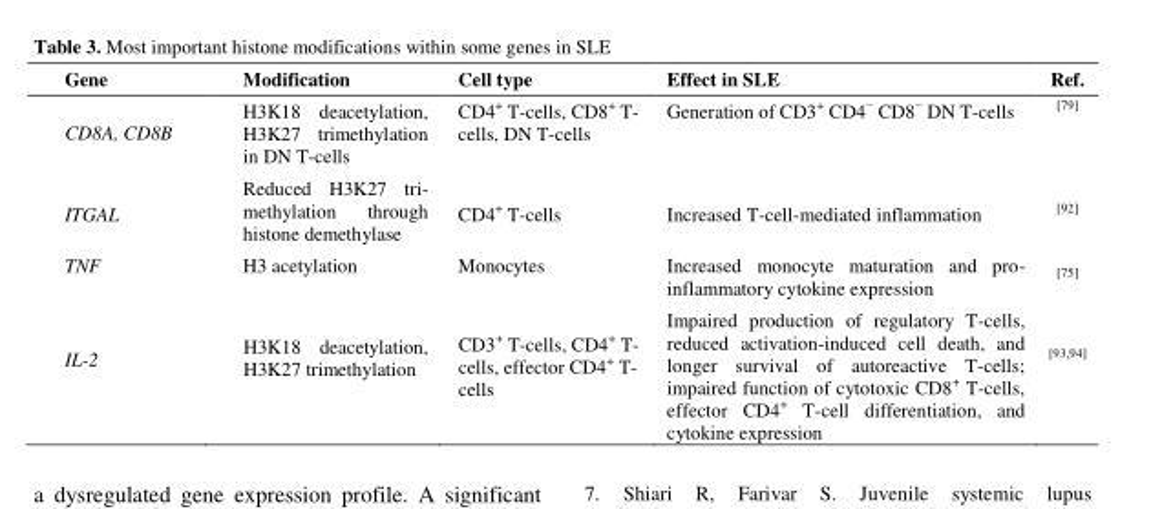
<table><thead><tr><td>Gene</td><td>Modification</td><td>Cell type</td><td>Effect in SLE</td><td>Ref.</td></tr></thead><tbody><tr><td>CD8A, CD8B</td><td>H3K18 deacetylation, H3K27 trimethylation in DN T-cells</td><td>CD4<sup>+</sup> T-cells, CD8<sup>+</sup> T- cells, DN T-cells</td><td>Generation of CD3<sup>+</sup> CD4<sup>−</sup> CD8<sup>−</sup> DN T-cells</td><td>[79]</td></tr><tr><td>ITGAL</td><td>Reduced H3K27 tri- methylation through histone demethylase</td><td>CD4<sup>+</sup> T-cells</td><td>Increased T-cell-mediated inflammation</td><td>[92]</td></tr><tr><td>TNF</td><td>H3 acetylation</td><td>Monocytes</td><td>Increased monocyte maturation and pro- inflammatory cytokine expression</td><td>[75]</td></tr><tr><td>IL-2</td><td>H3K18 deacetylation, H3K27 trimethylation</td><td>CD3<sup>+</sup> T-cells, CD4<sup>+</sup> T- cells, effector CD4<sup>+</sup> T- cells</td><td>Impaired production of regulatory T-cells, reduced activation-induced cell death, and longer survival of autoreactive T-cells; impaired function of cytotoxic CD8<sup>+</sup> T-cells, effector CD4<sup>+</sup> T-cell differentiation, and cytokine expression</td><td>[93,94]</td></tr></tbody></table>